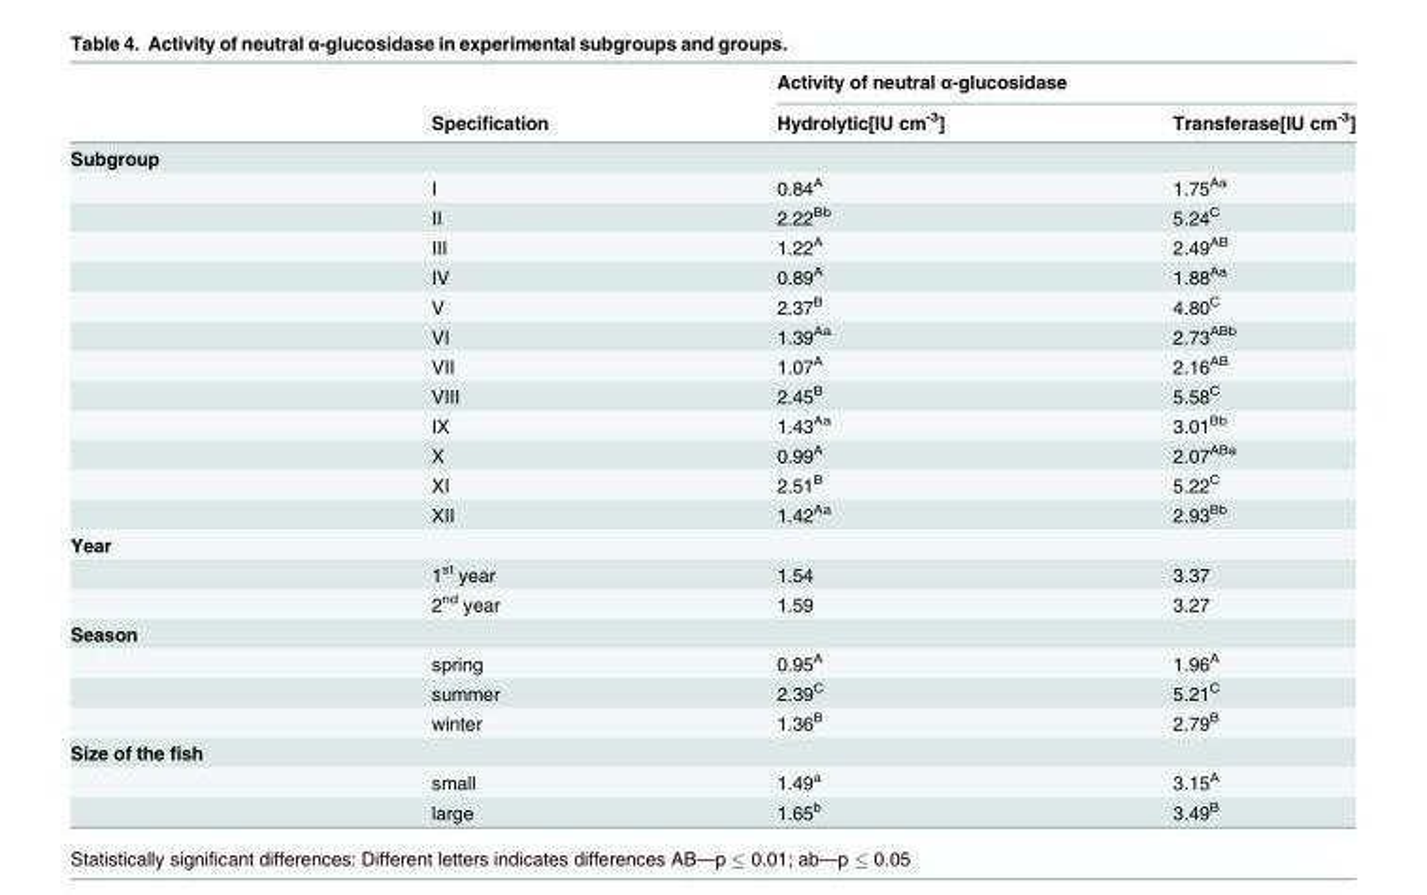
<table><thead><tr><td rowspan="2"></td><td rowspan="2">Specification</td><td colspan="2">Activity of neutral α-glucosidase</td></tr><tr><td>Hydrolytic[IU cm<sup>-3</sup>]</td><td>Transferase[IU cm<sup>-3</sup>]</td></tr></thead><tbody><tr><td colspan="4">Subgroup</td></tr><tr><td></td><td>I</td><td>0.84<sup>A</sup></td><td>1.75<sup>Aa</sup></td></tr><tr><td></td><td>II</td><td>2.22<sup>Bb</sup></td><td>5.24<sup>C</sup></td></tr><tr><td></td><td>III</td><td>1.22<sup>A</sup></td><td>2.49<sup>AB</sup></td></tr><tr><td></td><td>IV</td><td>0.89<sup>A</sup></td><td>1.88<sup>Aa</sup></td></tr><tr><td></td><td>V</td><td>2.37<sup>B</sup></td><td>4.80<sup>C</sup></td></tr><tr><td></td><td>VI</td><td>1.39<sup>Aa</sup></td><td>2.73<sup>ABb</sup></td></tr><tr><td></td><td>VII</td><td>1.07<sup>A</sup></td><td>2.16<sup>AB</sup></td></tr><tr><td></td><td>VIII</td><td>2.45<sup>B</sup></td><td>5.58<sup>C</sup></td></tr><tr><td></td><td>IX</td><td>1.43<sup>Aa</sup></td><td>3.01<sup>Bb</sup></td></tr><tr><td></td><td>X</td><td>0.99<sup>A</sup></td><td>2.07<sup>ABa</sup></td></tr><tr><td></td><td>XI</td><td>2.51<sup>B</sup></td><td>5.22<sup>C</sup></td></tr><tr><td></td><td>XII</td><td>1.42<sup>Aa</sup></td><td>2.93<sup>Bb</sup></td></tr><tr><td colspan="4">Year</td></tr><tr><td></td><td>1<sup>st</sup> year</td><td>1.54</td><td>3.37</td></tr><tr><td></td><td>2<sup>nd</sup> year</td><td>1.59</td><td>3.27</td></tr><tr><td colspan="4">Season</td></tr><tr><td></td><td>spring</td><td>0.95<sup>A</sup></td><td>1.96<sup>A</sup></td></tr><tr><td></td><td>summer</td><td>2.39<sup>C</sup></td><td>5.21<sup>C</sup></td></tr><tr><td></td><td>winter</td><td>1.36<sup>B</sup></td><td>2.79<sup>B</sup></td></tr><tr><td colspan="4">Size of the fish</td></tr><tr><td></td><td>small</td><td>1.49<sup>a</sup></td><td>3.15<sup>A</sup></td></tr><tr><td></td><td>large</td><td>1.65<sup>b</sup></td><td>3.49<sup>B</sup></td></tr></tbody></table>